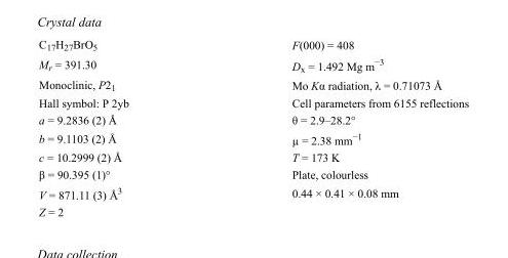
<table><tbody><tr><td>C<sub>17</sub>H<sub>27</sub>BrO<sub>5</sub></td><td>F(000) = 408</td></tr><tr><td>M<sub>r</sub> = 391.30</td><td>D<sub>x</sub> = 1.492 Mg m<sup>−3</sup></td></tr><tr><td>Monoclinic, P2<sub>1</sub></td><td>Mo Kα radiation, λ = 0.71073 Å</td></tr><tr><td>Hall symbol: P 2yb</td><td>Cell parameters from 6155 reflections</td></tr><tr><td>a = 9.2836 (2) Å</td><td>θ = 2.9–28.2°</td></tr><tr><td>b = 9.1103 (2) Å</td><td>µ = 2.38 mm<sup>−1</sup></td></tr><tr><td>c = 10.2999 (2) Å</td><td>T = 173 K</td></tr><tr><td>β = 90.395 (1)°</td><td>Plate, colourless</td></tr><tr><td>V = 871.11 (3) Å<sup>3</sup></td><td>0.44 × 0.41 × 0.08 mm</td></tr><tr><td>Z = 2</td><td></td></tr></tbody></table>